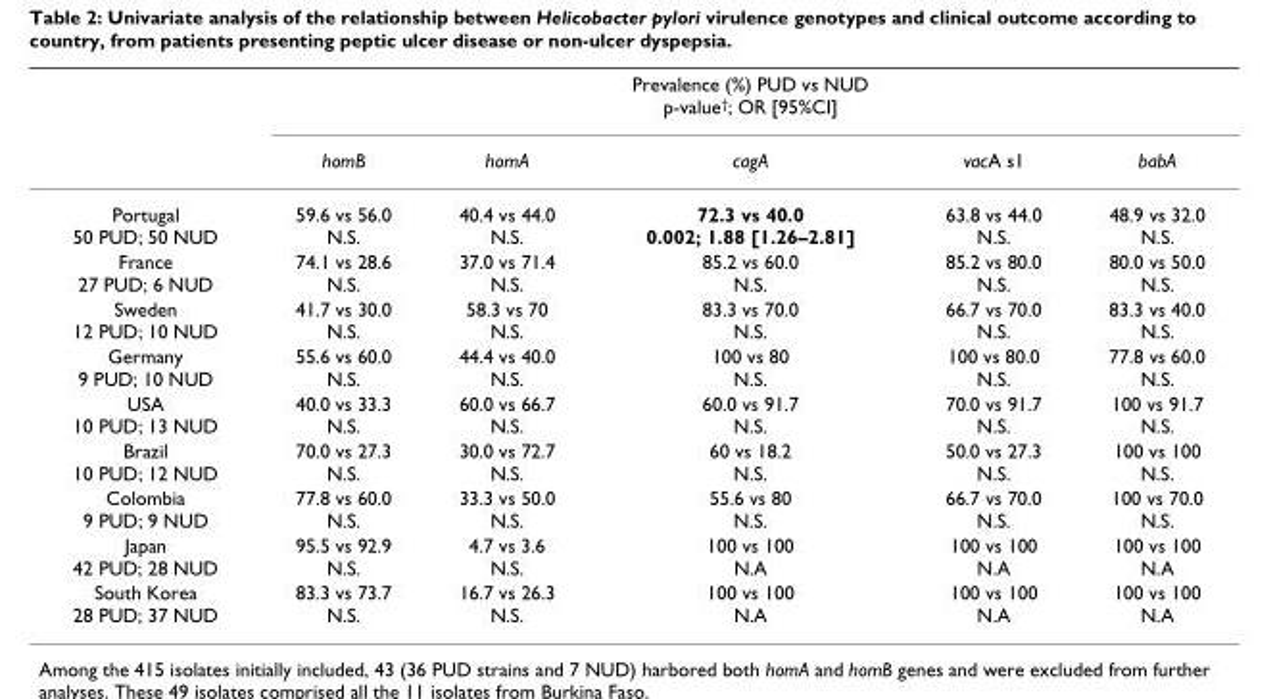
<table><thead><tr><td rowspan="2"></td><td colspan="5">Prevalence (%) PUD vs NUD p-value<sup>†</sup>; OR [95%CI]</td></tr><tr><td>homB</td><td>homA</td><td>cagA</td><td>vacA s1</td><td>babA</td></tr></thead><tbody><tr><td>Portugal 50 PUD; 50 NUD</td><td>59.6 vs 56.0 N.S.</td><td>40.4 vs 44.0 N.S.</td><td>72.3 vs 40.0 0.002; 1.88 [1.26–2.81]</td><td>63.8 vs 44.0 N.S.</td><td>48.9 vs 32.0 N.S.</td></tr><tr><td>France 27 PUD; 6 NUD</td><td>74.1 vs 28.6 N.S.</td><td>37.0 vs 71.4 N.S.</td><td>85.2 vs 60.0 N.S.</td><td>85.2 vs 80.0 N.S.</td><td>80.0 vs 50.0 N.S.</td></tr><tr><td>Sweden 12 PUD; 10 NUD</td><td>41.7 vs 30.0 N.S.</td><td>58.3 vs 70 N.S.</td><td>83.3 vs 70.0 N.S.</td><td>66.7 vs 70.0 N.S.</td><td>83.3 vs 40.0 N.S.</td></tr><tr><td>Germany 9 PUD; 10 NUD</td><td>55.6 vs 60.0 N.S.</td><td>44.4 vs 40.0 N.S.</td><td>100 vs 80 N.S.</td><td>100 vs 80.0 N.S.</td><td>77.8 vs 60.0 N.S.</td></tr><tr><td>USA 10 PUD; 13 NUD</td><td>40.0 vs 33.3 N.S.</td><td>60.0 vs 66.7 N.S.</td><td>60.0 vs 91.7 N.S.</td><td>70.0 vs 91.7 N.S.</td><td>100 vs 91.7 N.S.</td></tr><tr><td>Brazil 10 PUD; 12 NUD</td><td>70.0 vs 27.3 N.S.</td><td>30.0 vs 72.7 N.S.</td><td>60 vs 18.2 N.S.</td><td>50.0 vs 27.3 N.S.</td><td>100 vs 100 N.S.</td></tr><tr><td>Colombia 9 PUD; 9 NUD</td><td>77.8 vs 60.0 N.S.</td><td>33.3 vs 50.0 N.S.</td><td>55.6 vs 80 N.S.</td><td>66.7 vs 70.0 N.S.</td><td>100 vs 70.0 N.S.</td></tr><tr><td>Japan 42 PUD; 28 NUD</td><td>95.5 vs 92.9 N.S.</td><td>4.7 vs 3.6 N.S.</td><td>100 vs 100 N.A</td><td>100 vs 100 N.A</td><td>100 vs 100 N.A</td></tr><tr><td>South Korea 28 PUD; 37 NUD</td><td>83.3 vs 73.7 N.S.</td><td>16.7 vs 26.3 N.S.</td><td>100 vs 100 N.A</td><td>100 vs 100 N.A</td><td>100 vs 100 N.A</td></tr></tbody></table>